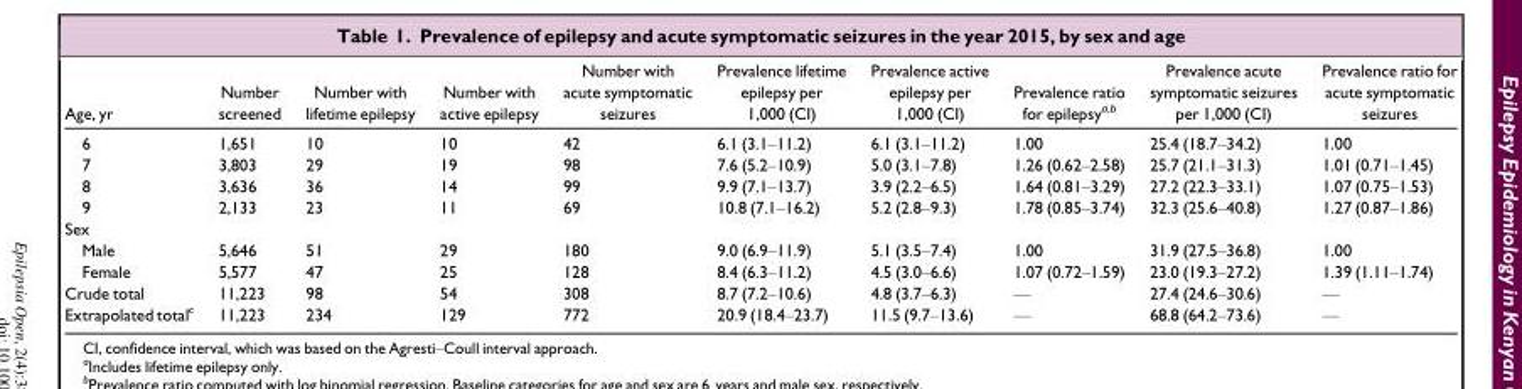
<table><thead><tr><td>Age, yr</td><td>Number screened</td><td>Number with lifetime epilepsy</td><td>Number with active epilepsy</td><td>Number with acute symptomatic seizures</td><td>Prevalence lifetime epilepsy per 1,000 (CI)</td><td>Prevalence active epilepsy per 1,000 (CI)</td><td>Prevalence ratio for epilepsy<sup>a,</sup>b</td><td>Prevalence acute symptomatic seizures per 1,000 (CI)</td><td>Prevalence ratio for acute symptomatic seizures</td></tr></thead><tbody><tr><td>6</td><td>1,651</td><td>10</td><td>10</td><td>42</td><td>6.1 (3.1–11.2)</td><td>6.1 (3.1–11.2)</td><td>1.00</td><td>25.4 (18.7–34.2)</td><td>1.00</td></tr><tr><td>7</td><td>3,803</td><td>29</td><td>19</td><td>98</td><td>7.6 (5.2–10.9)</td><td>5.0 (3.1–7.8)</td><td>1.26 (0.62–2.58)</td><td>25.7 (21.1–31.3)</td><td>1.01 (0.71–1.45)</td></tr><tr><td>8</td><td>3,636</td><td>36</td><td>14</td><td>99</td><td>9.9 (7.1–13.7)</td><td>3.9 (2.2–6.5)</td><td>1.64 (0.81–3.29)</td><td>27.2 (22.3–33.1)</td><td>1.07 (0.75–1.53)</td></tr><tr><td>9</td><td>2,133</td><td>23</td><td>11</td><td>69</td><td>10.8 (7.1–16.2)</td><td>5.2 (2.8–9.3)</td><td>1.78 (0.85–3.74)</td><td>32.3 (25.6–40.8)</td><td>1.27 (0.87–1.86)</td></tr><tr><td colspan="10">Sex</td></tr><tr><td>Male</td><td>5,646</td><td>51</td><td>29</td><td>180</td><td>9.0 (6.9–11.9)</td><td>5.1 (3.5–7.4)</td><td>1.00</td><td>31.9 (27.5–36.8)</td><td>1.00</td></tr><tr><td>Female</td><td>5,577</td><td>47</td><td>25</td><td>128</td><td>8.4 (6.3–11.2)</td><td>4.5 (3.0–6.6)</td><td>1.07 (0.72–1.59)</td><td>23.0 (19.3–27.2)</td><td>1.39 (1.11–1.74)</td></tr><tr><td>Crude total</td><td>11,223</td><td>98</td><td>54</td><td>308</td><td>8.7 (7.2–10.6)</td><td>4.8 (3.7–6.3)</td><td>—</td><td>27.4 (24.6–30.6)</td><td>—</td></tr><tr><td>Extrapolated total<sup>c</sup></td><td>11,223</td><td>234</td><td>129</td><td>772</td><td>20.9 (18.4–23.7)</td><td>11.5 (9.7–13.6)</td><td>—</td><td>68.8 (64.2–73.6)</td><td>—</td></tr></tbody></table>